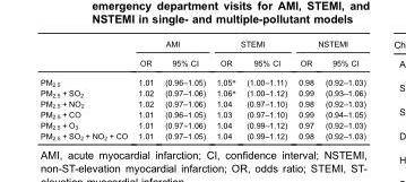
<table><thead><tr><td rowspan="2"></td><td colspan="2">AMI</td><td colspan="2">STEMI</td><td colspan="2">NSTEMI</td></tr><tr><td>OR</td><td>95% CI</td><td>OR</td><td>95% CI</td><td>OR</td><td>95% CI</td></tr></thead><tbody><tr><td>PM<sub>2.5</sub></td><td>1.01</td><td>(0.96–1.05)</td><td>1.05*</td><td>(1.00–1.11)</td><td>0.98</td><td>(0.92–1.03)</td></tr><tr><td>PM<sub>2.5</sub> + SO<sub>2</sub></td><td>1.02</td><td>(0.97–1.06)</td><td>1.06*</td><td>(1.00–1.12)</td><td>0.99</td><td>(0.93–1.06)</td></tr><tr><td>PM<sub>2.5</sub> + NO<sub>2</sub></td><td>1.02</td><td>(0.97–1.06)</td><td>1.04</td><td>(0.97–1.10)</td><td>0.98</td><td>(0.92–1.03)</td></tr><tr><td>PM<sub>2.5</sub> + CO</td><td>1.01</td><td>(0.96–1.05)</td><td>1.03</td><td>(0.97–1.10)</td><td>0.99</td><td>(0.94–1.05)</td></tr><tr><td>PM<sub>2.5</sub> + O<sub>3</sub></td><td>1.01</td><td>(0.97–1.06)</td><td>1.04</td><td>(0.99–1.12)</td><td>0.97</td><td>(0.92–1.03)</td></tr><tr><td>PM<sub>2.5</sub> + SO<sub>2</sub> + NO<sub>2</sub> + CO</td><td>1.01</td><td>(0.97–1.05)</td><td>1.04</td><td>(0.99–1.12)</td><td>0.98</td><td>(0.92–1.03)</td></tr></tbody></table>